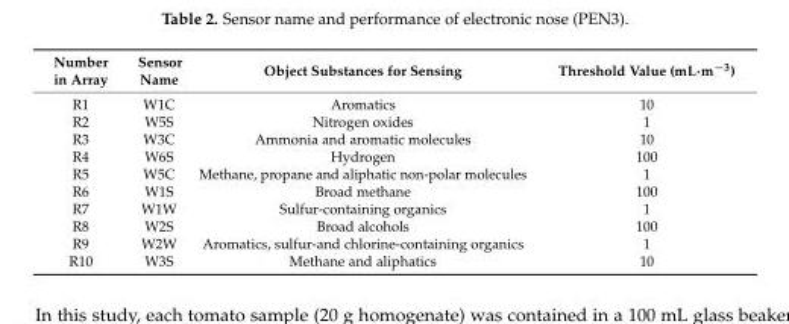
<table><thead><tr><td>Number in Array</td><td>Sensor Name</td><td>Object Substances for Sensing</td><td>Threshold Value (mL·m<sup>−3</sup>)</td></tr></thead><tbody><tr><td>R1</td><td>W1C</td><td>Aromatics</td><td>10</td></tr><tr><td>R2</td><td>W5S</td><td>Nitrogen oxides</td><td>1</td></tr><tr><td>R3</td><td>W3C</td><td>Ammonia and aromatic molecules</td><td>10</td></tr><tr><td>R4</td><td>W6S</td><td>Hydrogen</td><td>100</td></tr><tr><td>R5</td><td>W5C</td><td>Methane, propane and aliphatic non-polar molecules</td><td>1</td></tr><tr><td>R6</td><td>W1S</td><td>Broad methane</td><td>100</td></tr><tr><td>R7</td><td>W1W</td><td>Sulfur-containing organics</td><td>1</td></tr><tr><td>R8</td><td>W2S</td><td>Broad alcohols</td><td>100</td></tr><tr><td>R9</td><td>W2W</td><td>Aromatics, sulfur-and chlorine-containing organics</td><td>1</td></tr><tr><td>R10</td><td>W3S</td><td>Methane and aliphatics</td><td>10</td></tr></tbody></table>